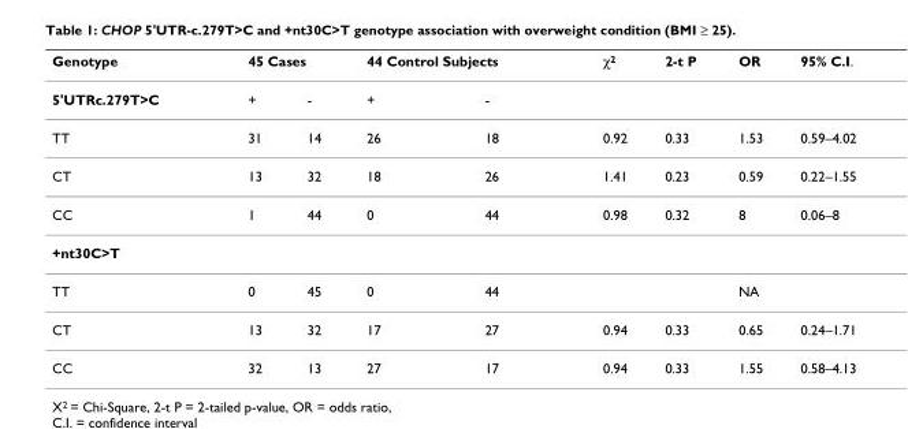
<table><thead><tr><td rowspan="2">Genotype 5&#x27;UTRc.279T&gt;C</td><td colspan="2">45 Cases</td><td colspan="2">44 Control Subjects</td><td rowspan="2">χ<sup>2</sup></td><td rowspan="2">2-t P</td><td rowspan="2">OR</td><td rowspan="2">95% C.I.</td></tr><tr><td>+</td><td>-</td><td>+</td><td>-</td></tr></thead><tbody><tr><td>TT</td><td>31</td><td>14</td><td>26</td><td>18</td><td>0.92</td><td>0.33</td><td>1.53</td><td>0.59–4.02</td></tr><tr><td>CT</td><td>13</td><td>32</td><td>18</td><td>26</td><td>1.41</td><td>0.23</td><td>0.59</td><td>0.22–1.55</td></tr><tr><td>CC</td><td>1</td><td>44</td><td>0</td><td>44</td><td>0.98</td><td>0.32</td><td>8</td><td>0.06–8</td></tr><tr><td colspan="9">+nt30C&gt;T</td></tr><tr><td>TT</td><td>0</td><td>45</td><td>0</td><td>44</td><td></td><td></td><td>NA</td><td></td></tr><tr><td>CT</td><td>13</td><td>32</td><td>17</td><td>27</td><td>0.94</td><td>0.33</td><td>0.65</td><td>0.24–1.71</td></tr><tr><td>CC</td><td>32</td><td>13</td><td>27</td><td>17</td><td>0.94</td><td>0.33</td><td>1.55</td><td>0.58–4.13</td></tr></tbody></table>